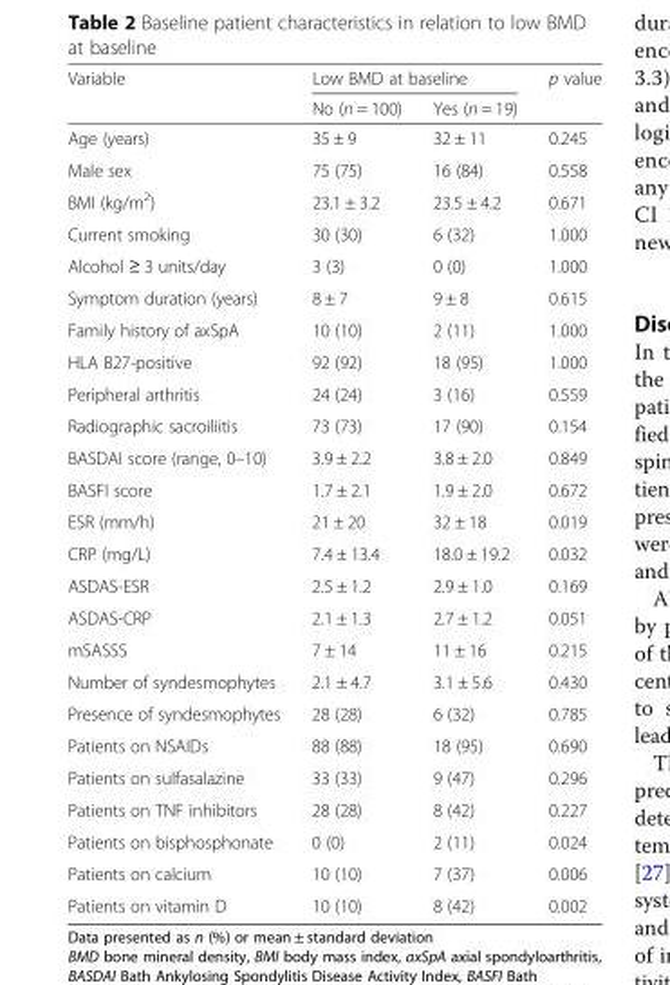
<table><thead><tr><td rowspan="2">Variable</td><td colspan="2">Low BMD at baseline</td><td rowspan="2">p value</td></tr><tr><td>No (n = 100)</td><td>Yes (n = 19)</td></tr></thead><tbody><tr><td>Age (years)</td><td>35 ± 9</td><td>32 ± 11</td><td>0.245</td></tr><tr><td>Male sex</td><td>75 (75)</td><td>16 (84)</td><td>0.558</td></tr><tr><td>BMI (kg/m<sup>2</sup>)</td><td>23.1 ± 3.2</td><td>23.5 ± 4.2</td><td>0.671</td></tr><tr><td>Current smoking</td><td>30 (30)</td><td>6 (32)</td><td>1.000</td></tr><tr><td>Alcohol ≥ 3 units/day</td><td>3 (3)</td><td>0 (0)</td><td>1.000</td></tr><tr><td>Symptom duration (years)</td><td>8 ± 7</td><td>9 ± 8</td><td>0.615</td></tr><tr><td>Family history of axSpA</td><td>10 (10)</td><td>2 (11)</td><td>1.000</td></tr><tr><td>HLA B27-positive</td><td>92 (92)</td><td>18 (95)</td><td>1.000</td></tr><tr><td>Peripheral arthritis</td><td>24 (24)</td><td>3 (16)</td><td>0.559</td></tr><tr><td>Radiographic sacroiliitis</td><td>73 (73)</td><td>17 (90)</td><td>0.154</td></tr><tr><td>BASDAI score (range, 0–10)</td><td>3.9 ± 2.2</td><td>3.8 ± 2.0</td><td>0.849</td></tr><tr><td>BASFI score</td><td>1.7 ± 2.1</td><td>1.9 ± 2.0</td><td>0.672</td></tr><tr><td>ESR (mm/h)</td><td>21 ± 20</td><td>32 ± 18</td><td>0.019</td></tr><tr><td>CRP (mg/L)</td><td>7.4 ± 13.4</td><td>18.0 ± 19.2</td><td>0.032</td></tr><tr><td>ASDAS-ESR</td><td>2.5 ± 1.2</td><td>2.9 ± 1.0</td><td>0.169</td></tr><tr><td>ASDAS-CRP</td><td>2.1 ± 1.3</td><td>2.7 ± 1.2</td><td>0.051</td></tr><tr><td>mSASSS</td><td>7 ± 14</td><td>11 ± 16</td><td>0.215</td></tr><tr><td>Number of syndesmophytes</td><td>2.1 ± 4.7</td><td>3.1 ± 5.6</td><td>0.430</td></tr><tr><td>Presence of syndesmophytes</td><td>28 (28)</td><td>6 (32)</td><td>0.785</td></tr><tr><td>Patients on NSAIDs</td><td>88 (88)</td><td>18 (95)</td><td>0.690</td></tr><tr><td>Patients on sulfasalazine</td><td>33 (33)</td><td>9 (47)</td><td>0.296</td></tr><tr><td>Patients on TNF inhibitors</td><td>28 (28)</td><td>8 (42)</td><td>0.227</td></tr><tr><td>Patients on bisphosphonate</td><td>0 (0)</td><td>2 (11)</td><td>0.024</td></tr><tr><td>Patients on calcium</td><td>10 (10)</td><td>7 (37)</td><td>0.006</td></tr><tr><td>Patients on vitamin D</td><td>10 (10)</td><td>8 (42)</td><td>0.002</td></tr></tbody></table>